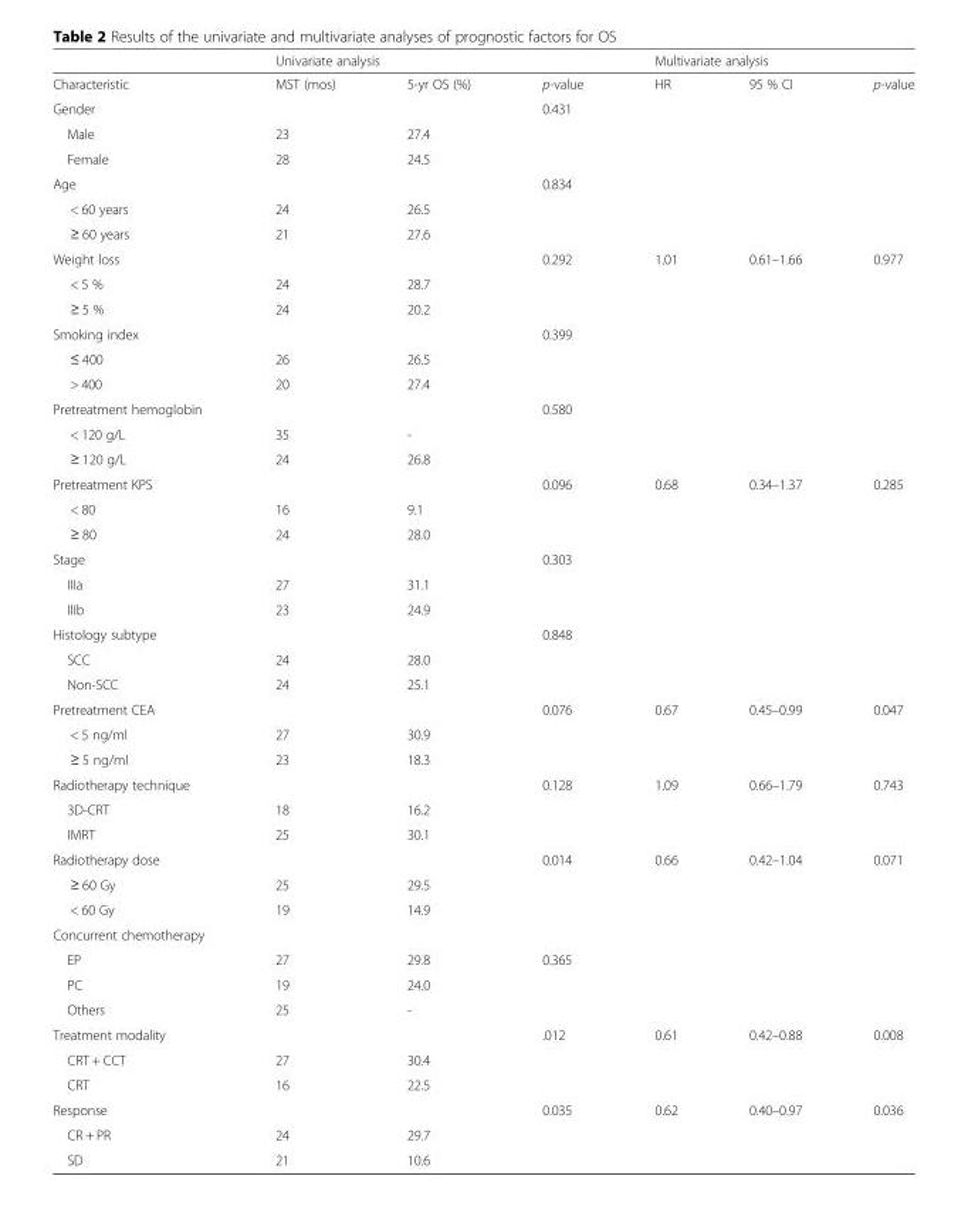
<table><thead><tr><td rowspan="2">Characteristic</td><td colspan="3">Univariate analysis</td><td colspan="3">Multivariate analysis</td></tr><tr><td>MST (mos)</td><td>5-yr OS (%)</td><td>p-value</td><td>HR</td><td>95 % CI</td><td>p-value</td></tr></thead><tbody><tr><td>Gender</td><td></td><td></td><td>0.431</td><td></td><td></td><td></td></tr><tr><td>Male</td><td>23</td><td>27.4</td><td></td><td></td><td></td><td></td></tr><tr><td>Female</td><td>28</td><td>24.5</td><td></td><td></td><td></td><td></td></tr><tr><td>Age</td><td></td><td></td><td>0.834</td><td></td><td></td><td></td></tr><tr><td>&lt; 60 years</td><td>24</td><td>26.5</td><td></td><td></td><td></td><td></td></tr><tr><td>≥ 60 years</td><td>21</td><td>27.6</td><td></td><td></td><td></td><td></td></tr><tr><td>Weight loss</td><td></td><td></td><td>0.292</td><td>1.01</td><td>0.61–1.66</td><td>0.977</td></tr><tr><td>&lt; 5 %</td><td>24</td><td>28.7</td><td></td><td></td><td></td><td></td></tr><tr><td>≥ 5 %</td><td>24</td><td>20.2</td><td></td><td></td><td></td><td></td></tr><tr><td>Smoking index</td><td></td><td></td><td>0.399</td><td></td><td></td><td></td></tr><tr><td>≤ 400</td><td>26</td><td>26.5</td><td></td><td></td><td></td><td></td></tr><tr><td>&gt; 400</td><td>20</td><td>27.4</td><td></td><td></td><td></td><td></td></tr><tr><td>Pretreatment hemoglobin</td><td></td><td></td><td>0.580</td><td></td><td></td><td></td></tr><tr><td>&lt; 120 g/L</td><td>35</td><td>-</td><td></td><td></td><td></td><td></td></tr><tr><td>≥ 120 g/L</td><td>24</td><td>26.8</td><td></td><td></td><td></td><td></td></tr><tr><td>Pretreatment KPS</td><td></td><td></td><td>0.096</td><td>0.68</td><td>0.34–1.37</td><td>0.285</td></tr><tr><td>&lt; 80</td><td>16</td><td>9.1</td><td></td><td></td><td></td><td></td></tr><tr><td>≥ 80</td><td>24</td><td>28.0</td><td></td><td></td><td></td><td></td></tr><tr><td>Stage</td><td></td><td></td><td>0.303</td><td></td><td></td><td></td></tr><tr><td>IIIa</td><td>27</td><td>31.1</td><td></td><td></td><td></td><td></td></tr><tr><td>IIIb</td><td>23</td><td>24.9</td><td></td><td></td><td></td><td></td></tr><tr><td>Histology subtype</td><td></td><td></td><td>0.848</td><td></td><td></td><td></td></tr><tr><td>SCC</td><td>24</td><td>28.0</td><td></td><td></td><td></td><td></td></tr><tr><td>Non-SCC</td><td>24</td><td>25.1</td><td></td><td></td><td></td><td></td></tr><tr><td>Pretreatment CEA</td><td></td><td></td><td>0.076</td><td>0.67</td><td>0.45–0.99</td><td>0.047</td></tr><tr><td>&lt; 5 ng/ml</td><td>27</td><td>30.9</td><td></td><td></td><td></td><td></td></tr><tr><td>≥ 5 ng/ml</td><td>23</td><td>18.3</td><td></td><td></td><td></td><td></td></tr><tr><td>Radiotherapy technique</td><td></td><td></td><td>0.128</td><td>1.09</td><td>0.66–1.79</td><td>0.743</td></tr><tr><td>3D-CRT</td><td>18</td><td>16.2</td><td></td><td></td><td></td><td></td></tr><tr><td>IMRT</td><td>25</td><td>30.1</td><td></td><td></td><td></td><td></td></tr><tr><td>Radiotherapy dose</td><td></td><td></td><td>0.014</td><td>0.66</td><td>0.42–1.04</td><td>0.071</td></tr><tr><td>≥ 60 Gy</td><td>25</td><td>29.5</td><td></td><td></td><td></td><td></td></tr><tr><td>&lt; 60 Gy</td><td>19</td><td>14.9</td><td></td><td></td><td></td><td></td></tr><tr><td colspan="7">Concurrent chemotherapy</td></tr><tr><td>EP</td><td>27</td><td>29.8</td><td>0.365</td><td></td><td></td><td></td></tr><tr><td>PC</td><td>19</td><td>24.0</td><td></td><td></td><td></td><td></td></tr><tr><td>Others</td><td>25</td><td>-</td><td></td><td></td><td></td><td></td></tr><tr><td>Treatment modality</td><td></td><td></td><td>.012</td><td>0.61</td><td>0.42–0.88</td><td>0.008</td></tr><tr><td>CRT + CCT</td><td>27</td><td>30.4</td><td></td><td></td><td></td><td></td></tr><tr><td>CRT</td><td>16</td><td>22.5</td><td></td><td></td><td></td><td></td></tr><tr><td>Response</td><td></td><td></td><td>0.035</td><td>0.62</td><td>0.40–0.97</td><td>0.036</td></tr><tr><td>CR + PR</td><td>24</td><td>29.7</td><td></td><td></td><td></td><td></td></tr><tr><td>SD</td><td>21</td><td>10.6</td><td></td><td></td><td></td><td></td></tr></tbody></table>